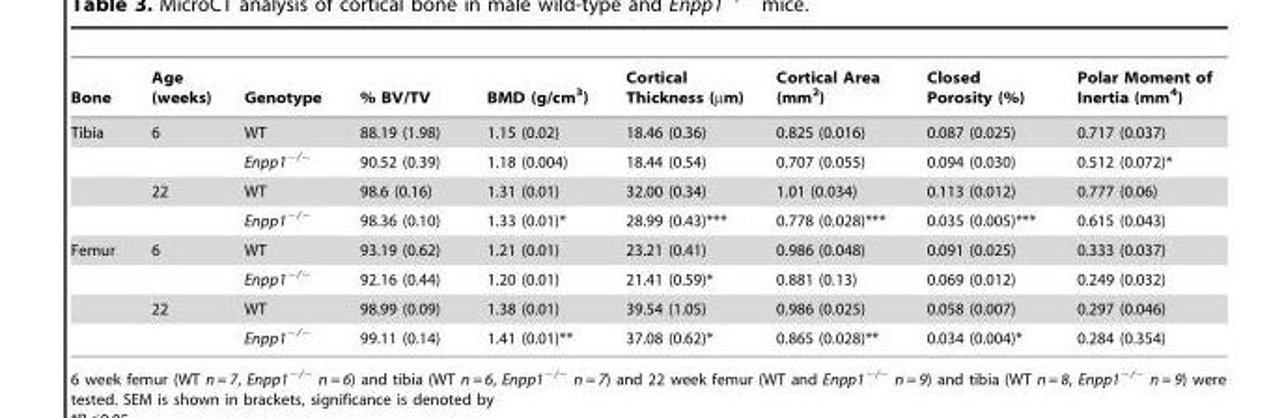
<table><thead><tr><td>Bone</td><td>Age (weeks)</td><td>Genotype</td><td>% BV/TV</td><td>BMD (g/cm<sup>3</sup>)</td><td>Cortical Thickness (µm)</td><td>Cortical Area (mm<sup>2</sup>)</td><td>Closed Porosity (%)</td><td>Polar Moment of Inertia (mm<sup>4</sup>)</td></tr></thead><tbody><tr><td rowspan="4">Tibia</td><td>6</td><td>WT</td><td>88.19 (1.98)</td><td>1.15 (0.02)</td><td>18.46 (0.36)</td><td>0.825 (0.016)</td><td>0.087 (0.025)</td><td>0.717 (0.037)</td></tr><tr><td></td><td>Enpp1<sup>−/−</sup></td><td>90.52 (0.39)</td><td>1.18 (0.004)</td><td>18.44 (0.54)</td><td>0.707 (0.055)</td><td>0.094 (0.030)</td><td>0.512 (0.072)*</td></tr><tr><td>22</td><td>WT</td><td>98.6 (0.16)</td><td>1.31 (0.01)</td><td>32.00 (0.34)</td><td>1.01 (0.034)</td><td>0.113 (0.012)</td><td>0.777 (0.06)</td></tr><tr><td></td><td>Enpp1<sup>−/−</sup></td><td>98.36 (0.10)</td><td>1.33 (0.01)*</td><td>28.99 (0.43)***</td><td>0.778 (0.028)***</td><td>0.035 (0.005)***</td><td>0.615 (0.043)</td></tr><tr><td rowspan="4">Femur</td><td>6</td><td>WT</td><td>93.19 (0.62)</td><td>1.21 (0.01)</td><td>23.21 (0.41)</td><td>0.986 (0.048)</td><td>0.091 (0.025)</td><td>0.333 (0.037)</td></tr><tr><td></td><td>Enpp1<sup>−/−</sup></td><td>92.16 (0.44)</td><td>1.20 (0.01)</td><td>21.41 (0.59)*</td><td>0.881 (0.13)</td><td>0.069 (0.012)</td><td>0.249 (0.032)</td></tr><tr><td>22</td><td>WT</td><td>98.99 (0.09)</td><td>1.38 (0.01)</td><td>39.54 (1.05)</td><td>0.986 (0.025)</td><td>0.058 (0.007)</td><td>0.297 (0.046)</td></tr><tr><td></td><td>Enpp1<sup>−/−</sup></td><td>99.11 (0.14)</td><td>1.41 (0.01)**</td><td>37.08 (0.62)*</td><td>0.865 (0.028)**</td><td>0.034 (0.004)*</td><td>0.284 (0.354)</td></tr></tbody></table>